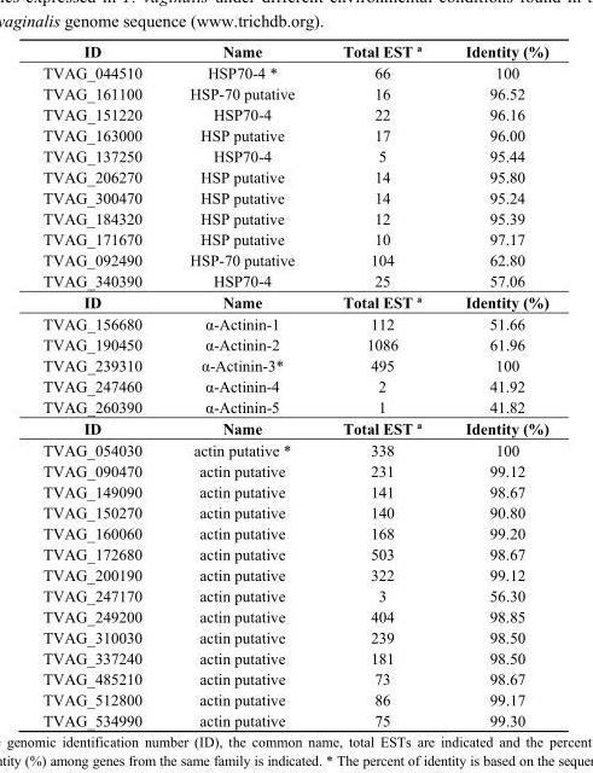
<table><thead><tr><td>ID</td><td>Name</td><td>Total EST <sup>a</sup></td><td>Identity (%)</td></tr></thead><tbody><tr><td>TVAG_044510</td><td>HSP70-4 *</td><td>66</td><td>100</td></tr><tr><td>TVAG_161100</td><td>HSP-70 putative</td><td>16</td><td>96.52</td></tr><tr><td>TVAG_151220</td><td>HSP70-4</td><td>22</td><td>96.16</td></tr><tr><td>TVAG_163000</td><td>HSP putative</td><td>17</td><td>96.00</td></tr><tr><td>TVAG_137250</td><td>HSP70-4</td><td>5</td><td>95.44</td></tr><tr><td>TVAG_206270</td><td>HSP putative</td><td>14</td><td>95.80</td></tr><tr><td>TVAG_300470</td><td>HSP putative</td><td>14</td><td>95.24</td></tr><tr><td>TVAG_184320</td><td>HSP putative</td><td>12</td><td>95.39</td></tr><tr><td>TVAG_171670</td><td>HSP putative</td><td>10</td><td>97.17</td></tr><tr><td>TVAG_092490</td><td>HSP-70 putative</td><td>104</td><td>62.80</td></tr><tr><td>TVAG_340390</td><td>HSP70-4</td><td>25</td><td>57.06</td></tr><tr><td>ID</td><td>Name</td><td>Total EST <sup>a</sup></td><td>Identity (%)</td></tr><tr><td>TVAG_156680</td><td>α-Actinin-1</td><td>112</td><td>51.66</td></tr><tr><td>TVAG_190450</td><td>α-Actinin-2</td><td>1086</td><td>61.96</td></tr><tr><td>TVAG_239310</td><td>α-Actinin-3*</td><td>495</td><td>100</td></tr><tr><td>TVAG_247460</td><td>α-Actinin-4</td><td>2</td><td>41.92</td></tr><tr><td>TVAG_260390</td><td>α-Actinin-5</td><td>1</td><td>41.82</td></tr><tr><td>ID</td><td>Name</td><td>Total EST <sup>a</sup></td><td>Identity (%)</td></tr><tr><td>TVAG_054030</td><td>actin putative *</td><td>338</td><td>100</td></tr><tr><td>TVAG_090470</td><td>actin putative</td><td>231</td><td>99.12</td></tr><tr><td>TVAG_149090</td><td>actin putative</td><td>141</td><td>98.67</td></tr><tr><td>TVAG_150270</td><td>actin putative</td><td>140</td><td>90.80</td></tr><tr><td>TVAG_160060</td><td>actin putative</td><td>168</td><td>99.20</td></tr><tr><td>TVAG_172680</td><td>actin putative</td><td>503</td><td>98.67</td></tr><tr><td>TVAG_200190</td><td>actin putative</td><td>322</td><td>99.12</td></tr><tr><td>TVAG_247170</td><td>actin putative</td><td>3</td><td>56.30</td></tr><tr><td>TVAG_249200</td><td>actin putative</td><td>404</td><td>98.85</td></tr><tr><td>TVAG_310030</td><td>actin putative</td><td>239</td><td>98.50</td></tr><tr><td>TVAG_337240</td><td>actin putative</td><td>181</td><td>98.50</td></tr><tr><td>TVAG_485210</td><td>actin putative</td><td>73</td><td>98.67</td></tr><tr><td>TVAG_512800</td><td>actin putative</td><td>86</td><td>99.17</td></tr><tr><td>TVAG_534990</td><td>actin putative</td><td>75</td><td>99.30</td></tr></tbody></table>